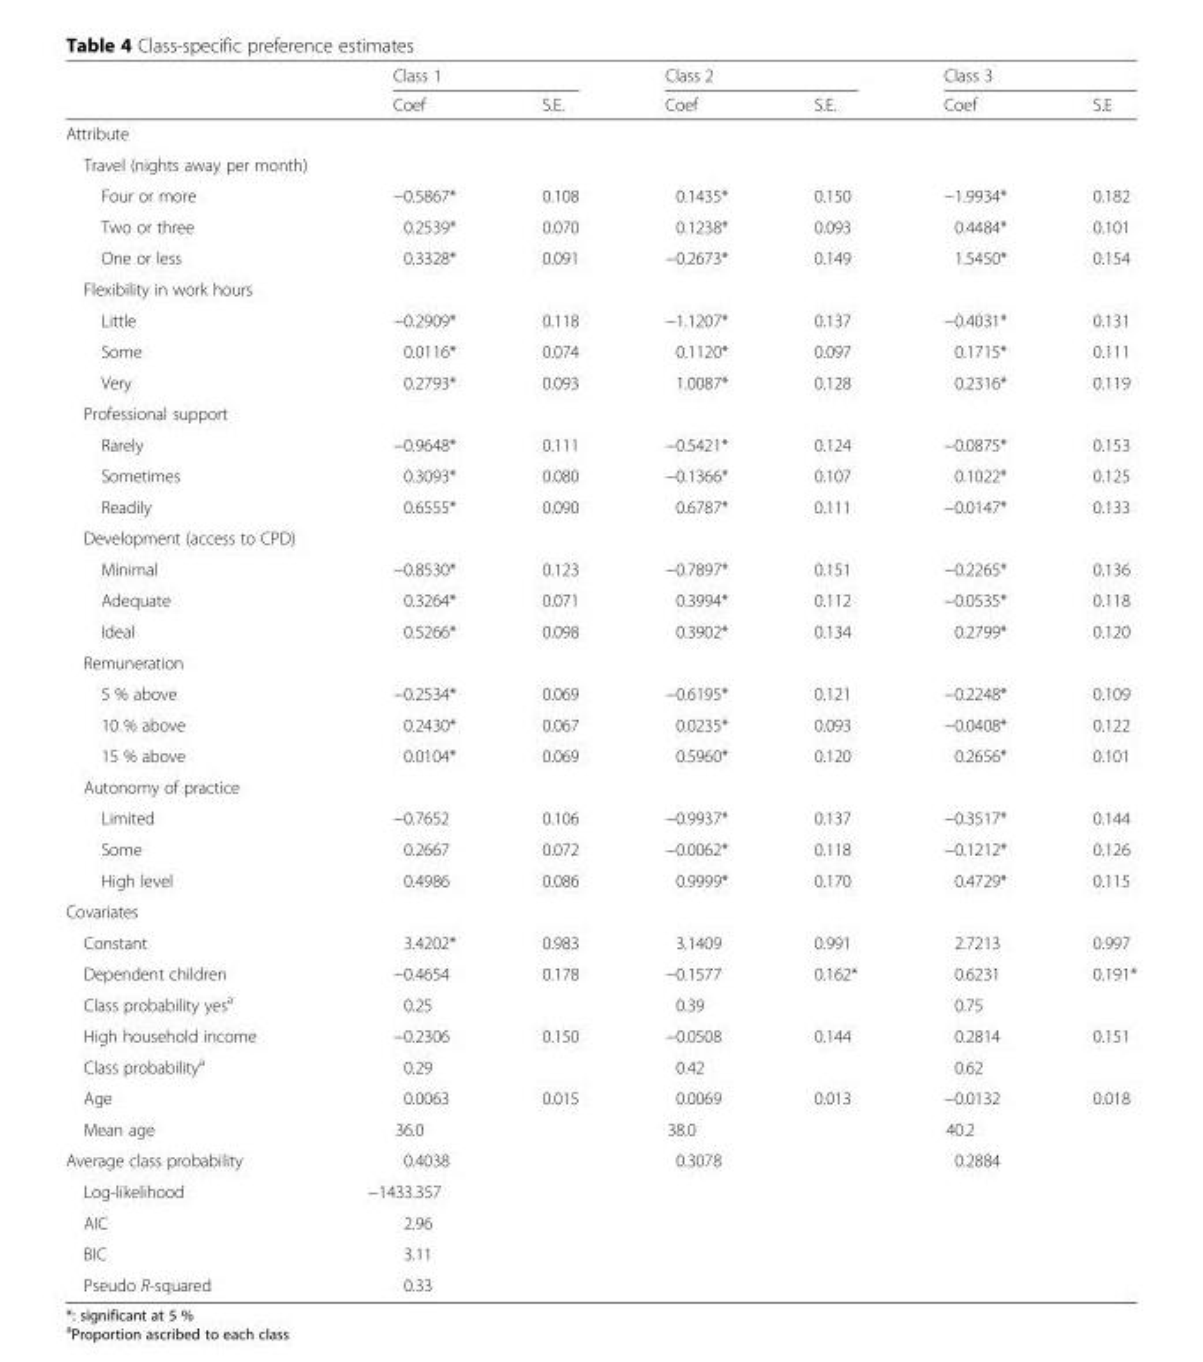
<table><thead><tr><td rowspan="2"></td><td colspan="2">Class 1</td><td colspan="2">Class 2</td><td colspan="2">Class 3</td></tr><tr><td>Coef</td><td>S.E.</td><td>Coef</td><td>S.E.</td><td>Coef</td><td>S.E</td></tr></thead><tbody><tr><td colspan="7">Attribute</td></tr><tr><td colspan="7">Travel (nights away per month)</td></tr><tr><td>Four or more</td><td>−0.5867*</td><td>0.108</td><td>0.1435*</td><td>0.150</td><td>−1.9934*</td><td>0.182</td></tr><tr><td>Two or three</td><td>0.2539*</td><td>0.070</td><td>0.1238*</td><td>0.093</td><td>0.4484*</td><td>0.101</td></tr><tr><td>One or less</td><td>0.3328*</td><td>0.091</td><td>−0.2673*</td><td>0.149</td><td>1.5450*</td><td>0.154</td></tr><tr><td colspan="7">Flexibility in work hours</td></tr><tr><td>Little</td><td>−0.2909*</td><td>0.118</td><td>−1.1207*</td><td>0.137</td><td>−0.4031*</td><td>0.131</td></tr><tr><td>Some</td><td>0.0116*</td><td>0.074</td><td>0.1120*</td><td>0.097</td><td>0.1715*</td><td>0.111</td></tr><tr><td>Very</td><td>0.2793*</td><td>0.093</td><td>1.0087*</td><td>0.128</td><td>0.2316*</td><td>0.119</td></tr><tr><td colspan="7">Professional support</td></tr><tr><td>Rarely</td><td>−0.9648*</td><td>0.111</td><td>−0.5421*</td><td>0.124</td><td>−0.0875*</td><td>0.153</td></tr><tr><td>Sometimes</td><td>0.3093*</td><td>0.080</td><td>−0.1366*</td><td>0.107</td><td>0.1022*</td><td>0.125</td></tr><tr><td>Readily</td><td>0.6555*</td><td>0.090</td><td>0.6787*</td><td>0.111</td><td>−0.0147*</td><td>0.133</td></tr><tr><td colspan="7">Development (access to CPD)</td></tr><tr><td>Minimal</td><td>−0.8530*</td><td>0.123</td><td>−0.7897*</td><td>0.151</td><td>−0.2265*</td><td>0.136</td></tr><tr><td>Adequate</td><td>0.3264*</td><td>0.071</td><td>0.3994*</td><td>0.112</td><td>−0.0535*</td><td>0.118</td></tr><tr><td>Ideal</td><td>0.5266*</td><td>0.098</td><td>0.3902*</td><td>0.134</td><td>0.2799*</td><td>0.120</td></tr><tr><td colspan="7">Remuneration</td></tr><tr><td>5 % above</td><td>−0.2534*</td><td>0.069</td><td>−0.6195*</td><td>0.121</td><td>−0.2248*</td><td>0.109</td></tr><tr><td>10 % above</td><td>0.2430*</td><td>0.067</td><td>0.0235*</td><td>0.093</td><td>−0.0408*</td><td>0.122</td></tr><tr><td>15 % above</td><td>0.0104*</td><td>0.069</td><td>0.5960*</td><td>0.120</td><td>0.2656*</td><td>0.101</td></tr><tr><td colspan="7">Autonomy of practice</td></tr><tr><td>Limited</td><td>−0.7652</td><td>0.106</td><td>−0.9937*</td><td>0.137</td><td>−0.3517*</td><td>0.144</td></tr><tr><td>Some</td><td>0.2667</td><td>0.072</td><td>−0.0062*</td><td>0.118</td><td>−0.1212*</td><td>0.126</td></tr><tr><td>High level</td><td>0.4986</td><td>0.086</td><td>0.9999*</td><td>0.170</td><td>0.4729*</td><td>0.115</td></tr><tr><td colspan="7">Covariates</td></tr><tr><td>Constant</td><td>3.4202*</td><td>0.983</td><td>3.1409</td><td>0.991</td><td>2.7213</td><td>0.997</td></tr><tr><td>Dependent children</td><td>−0.4654</td><td>0.178</td><td>−0.1577</td><td>0.162*</td><td>0.6231</td><td>0.191*</td></tr><tr><td>Class probability yes<sup>a</sup></td><td>0.25</td><td></td><td>0.39</td><td></td><td>0.75</td><td></td></tr><tr><td>High household income</td><td>−0.2306</td><td>0.150</td><td>−0.0508</td><td>0.144</td><td>0.2814</td><td>0.151</td></tr><tr><td>Class probability<sup>a</sup></td><td>0.29</td><td></td><td>0.42</td><td></td><td>0.62</td><td></td></tr><tr><td>Age</td><td>0.0063</td><td>0.015</td><td>0.0069</td><td>0.013</td><td>−0.0132</td><td>0.018</td></tr><tr><td>Mean age</td><td>36.0</td><td></td><td>38.0</td><td></td><td>40.2</td><td></td></tr><tr><td>Average class probability</td><td colspan="2">0.4038</td><td colspan="2">0.3078</td><td colspan="2">0.2884</td></tr><tr><td>Log-likelihood</td><td colspan="2">−1433.357</td><td></td><td></td><td></td><td></td></tr><tr><td>AIC</td><td>2.96</td><td></td><td></td><td></td><td></td><td></td></tr><tr><td>BIC</td><td>3.11</td><td></td><td></td><td></td><td></td><td></td></tr><tr><td>Pseudo R-squared</td><td>0.33</td><td></td><td></td><td></td><td></td><td></td></tr></tbody></table>